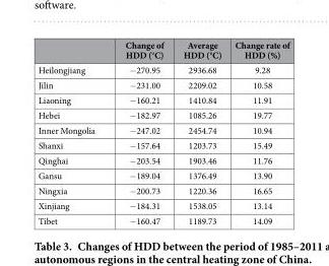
<table><thead><tr><td></td><td>Change of HDD (°C)</td><td>Average HDD (°C)</td><td>Change rate of HDD (%)</td></tr></thead><tbody><tr><td>Heilongjiang</td><td>− 270.95</td><td>2936.68</td><td>9.28</td></tr><tr><td>Jilin</td><td>− 231.00</td><td>2209.02</td><td>10.58</td></tr><tr><td>Liaoning</td><td>− 160.21</td><td>1410.84</td><td>11.91</td></tr><tr><td>Hebei</td><td>− 182.97</td><td>1085.26</td><td>19.77</td></tr><tr><td>Inner Mongolia</td><td>− 247.02</td><td>2454.74</td><td>10.94</td></tr><tr><td>Shanxi</td><td>− 157.64</td><td>1203.73</td><td>15.49</td></tr><tr><td>Qinghai</td><td>− 203.54</td><td>1903.46</td><td>11.76</td></tr><tr><td>Gansu</td><td>− 189.04</td><td>1376.49</td><td>13.90</td></tr><tr><td>Ningxia</td><td>− 200.73</td><td>1220.36</td><td>16.65</td></tr><tr><td>Xinjiang</td><td>− 184.31</td><td>1538.05</td><td>13.14</td></tr><tr><td>Tibet</td><td>− 160.47</td><td>1189.73</td><td>14.09</td></tr></tbody></table>